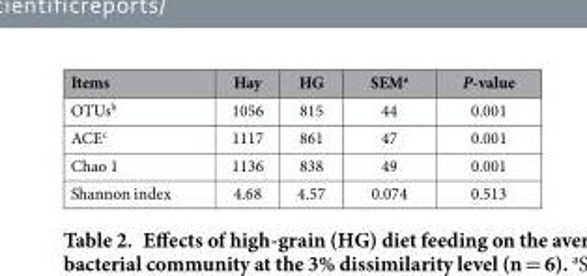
<table><thead><tr><td>Items</td><td>Hay</td><td>HG</td><td>SEM<sup>a</sup></td><td>P-value</td></tr></thead><tbody><tr><td>OTUs<sup>b</sup></td><td>1056</td><td>815</td><td>44</td><td>0.001</td></tr><tr><td>ACE<sup>c</sup></td><td>1117</td><td>861</td><td>47</td><td>0.001</td></tr><tr><td>Chao 1</td><td>1136</td><td>838</td><td>49</td><td>0.001</td></tr><tr><td>Shannon index</td><td>4.68</td><td>4.57</td><td>0.074</td><td>0.513</td></tr></tbody></table>